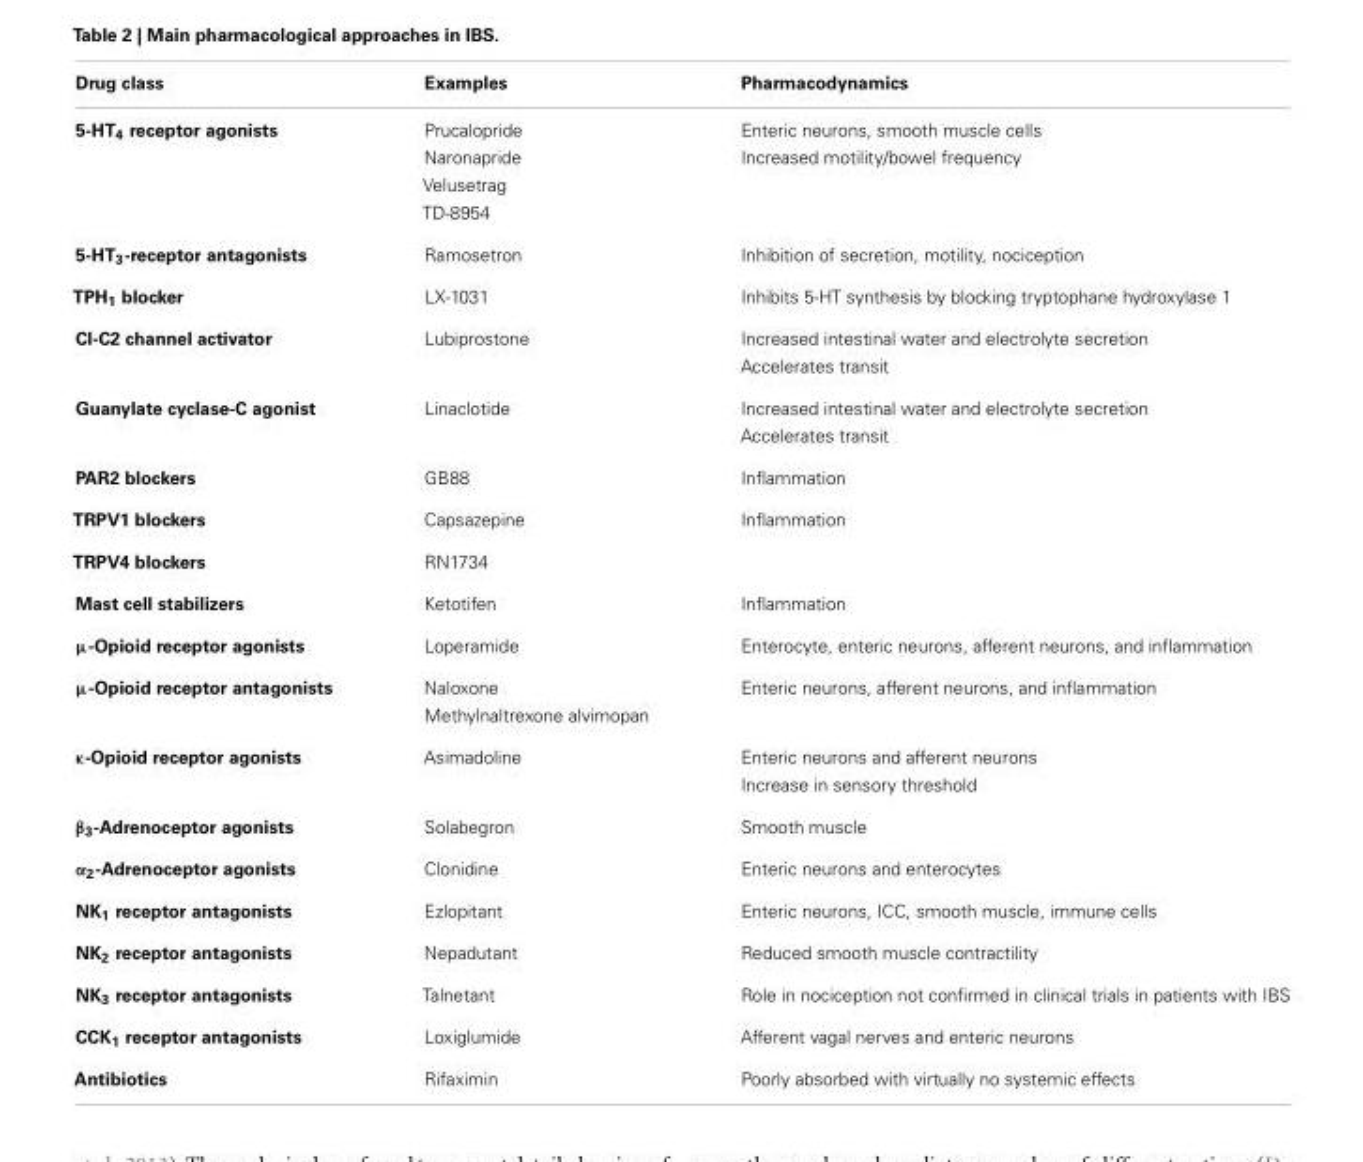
<table><thead><tr><td>Drug class</td><td>Examples</td><td>Pharmacodynamics</td></tr></thead><tbody><tr><td rowspan="4">5-HT<sub>4</sub> receptor agonists</td><td>Prucalopride</td><td>Enteric neurons, smooth muscle cells</td></tr><tr><td>Naronapride</td><td>Increased motility/bowel frequency</td></tr><tr><td>Velusetrag</td><td></td></tr><tr><td>TD-8954</td><td></td></tr><tr><td>5-HT<sub>3</sub>-receptor antagonists</td><td>Ramosetron</td><td>Inhibition of secretion, motility, nociception</td></tr><tr><td>TPH<sub>1</sub> blocker</td><td>LX-1031</td><td>Inhibits 5-HT synthesis by blocking tryptophane hydroxylase 1</td></tr><tr><td rowspan="2">Cl-C2 channel activator</td><td>Lubiprostone</td><td>Increased intestinal water and electrolyte secretion</td></tr><tr><td></td><td>Accelerates transit</td></tr><tr><td rowspan="2">Guanylate cyclase-C agonist</td><td>Linaclotide</td><td>Increased intestinal water and electrolyte secretion</td></tr><tr><td></td><td>Accelerates transit</td></tr><tr><td>PAR2 blockers</td><td>GB88</td><td>Inflammation</td></tr><tr><td>TRPV1 blockers</td><td>Capsazepine</td><td>Inflammation</td></tr><tr><td>TRPV4 blockers</td><td>RN1734</td><td></td></tr><tr><td>Mast cell stabilizers</td><td>Ketotifen</td><td>Inflammation</td></tr><tr><td>µ-Opioid receptor agonists</td><td>Loperamide</td><td>Enterocyte, enteric neurons, afferent neurons, and inflammation</td></tr><tr><td rowspan="2">µ-Opioid receptor antagonists</td><td>Naloxone</td><td>Enteric neurons, afferent neurons, and inflammation</td></tr><tr><td>Methylnaltrexone alvimopan</td><td></td></tr><tr><td rowspan="2">κ-Opioid receptor agonists</td><td>Asimadoline</td><td>Enteric neurons and afferent neurons</td></tr><tr><td></td><td>Increase in sensory threshold</td></tr><tr><td>β<sub>3</sub>-Adrenoceptor agonists</td><td>Solabegron</td><td>Smooth muscle</td></tr><tr><td>α<sub>2</sub>-Adrenoceptor agonists</td><td>Clonidine</td><td>Enteric neurons and enterocytes</td></tr><tr><td>NK<sub>1</sub> receptor antagonists</td><td>Ezlopitant</td><td>Enteric neurons, ICC, smooth muscle, immune cells</td></tr><tr><td>NK<sub>2</sub> receptor antagonists</td><td>Nepadutant</td><td>Reduced smooth muscle contractility</td></tr><tr><td>NK<sub>3</sub> receptor antagonists</td><td>Talnetant</td><td>Role in nociception not confirmed in clinical trials in patients with IBS</td></tr><tr><td>CCK<sub>1</sub> receptor antagonists</td><td>Loxiglumide</td><td>Afferent vagal nerves and enteric neurons</td></tr><tr><td>Antibiotics</td><td>Rifaximin</td><td>Poorly absorbed with virtually no systemic effects</td></tr></tbody></table>